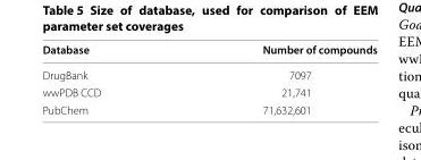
<table><thead><tr><td>Database</td><td>Number of compounds</td></tr></thead><tbody><tr><td>DrugBank</td><td>7097</td></tr><tr><td>wwPDB CCD</td><td>21,741</td></tr><tr><td>PubChem</td><td>71,632,601</td></tr></tbody></table>